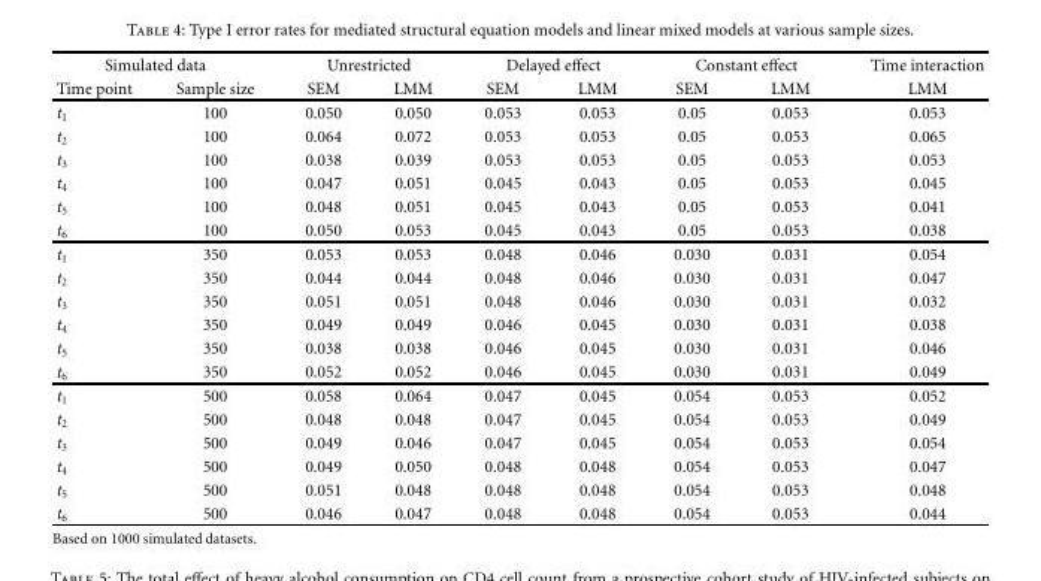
<table><thead><tr><td colspan="2">Simulated data</td><td colspan="2">Unrestricted</td><td colspan="2">Delayed effect</td><td colspan="2">Constant effect</td><td rowspan="2">Time interaction LMM</td></tr><tr><td>Time point</td><td>Sample size</td><td>SEM</td><td>LMM</td><td>SEM</td><td>LMM</td><td>SEM</td><td>LMM</td></tr></thead><tbody><tr><td>t<sub>1</sub></td><td>100</td><td>0.050</td><td>0.050</td><td>0.053</td><td>0.053</td><td>0.05</td><td>0.053</td><td>0.053</td></tr><tr><td>t<sub>2</sub></td><td>100</td><td>0.064</td><td>0.072</td><td>0.053</td><td>0.053</td><td>0.05</td><td>0.053</td><td>0.065</td></tr><tr><td>t<sub>3</sub></td><td>100</td><td>0.038</td><td>0.039</td><td>0.053</td><td>0.053</td><td>0.05</td><td>0.053</td><td>0.053</td></tr><tr><td>t<sub>4</sub></td><td>100</td><td>0.047</td><td>0.051</td><td>0.045</td><td>0.043</td><td>0.05</td><td>0.053</td><td>0.045</td></tr><tr><td>t<sub>5</sub></td><td>100</td><td>0.048</td><td>0.051</td><td>0.045</td><td>0.043</td><td>0.05</td><td>0.053</td><td>0.041</td></tr><tr><td>t<sub>6</sub></td><td>100</td><td>0.050</td><td>0.053</td><td>0.045</td><td>0.043</td><td>0.05</td><td>0.053</td><td>0.038</td></tr><tr><td>t<sub>1</sub></td><td>350</td><td>0.053</td><td>0.053</td><td>0.048</td><td>0.046</td><td>0.030</td><td>0.031</td><td>0.054</td></tr><tr><td>t<sub>2</sub></td><td>350</td><td>0.044</td><td>0.044</td><td>0.048</td><td>0.046</td><td>0.030</td><td>0.031</td><td>0.047</td></tr><tr><td>t<sub>3</sub></td><td>350</td><td>0.051</td><td>0.051</td><td>0.048</td><td>0.046</td><td>0.030</td><td>0.031</td><td>0.032</td></tr><tr><td>t<sub>4</sub></td><td>350</td><td>0.049</td><td>0.049</td><td>0.046</td><td>0.045</td><td>0.030</td><td>0.031</td><td>0.038</td></tr><tr><td>t<sub>5</sub></td><td>350</td><td>0.038</td><td>0.038</td><td>0.046</td><td>0.045</td><td>0.030</td><td>0.031</td><td>0.046</td></tr><tr><td>t<sub>6</sub></td><td>350</td><td>0.052</td><td>0.052</td><td>0.046</td><td>0.045</td><td>0.030</td><td>0.031</td><td>0.049</td></tr><tr><td>t<sub>1</sub></td><td>500</td><td>0.058</td><td>0.064</td><td>0.047</td><td>0.045</td><td>0.054</td><td>0.053</td><td>0.052</td></tr><tr><td>t<sub>2</sub></td><td>500</td><td>0.048</td><td>0.048</td><td>0.047</td><td>0.045</td><td>0.054</td><td>0.053</td><td>0.049</td></tr><tr><td>t<sub>3</sub></td><td>500</td><td>0.049</td><td>0.046</td><td>0.047</td><td>0.045</td><td>0.054</td><td>0.053</td><td>0.054</td></tr><tr><td>t<sub>4</sub></td><td>500</td><td>0.049</td><td>0.050</td><td>0.048</td><td>0.048</td><td>0.054</td><td>0.053</td><td>0.047</td></tr><tr><td>t<sub>5</sub></td><td>500</td><td>0.051</td><td>0.048</td><td>0.048</td><td>0.048</td><td>0.054</td><td>0.053</td><td>0.048</td></tr><tr><td>t<sub>6</sub></td><td>500</td><td>0.046</td><td>0.047</td><td>0.048</td><td>0.048</td><td>0.054</td><td>0.053</td><td>0.044</td></tr></tbody></table>